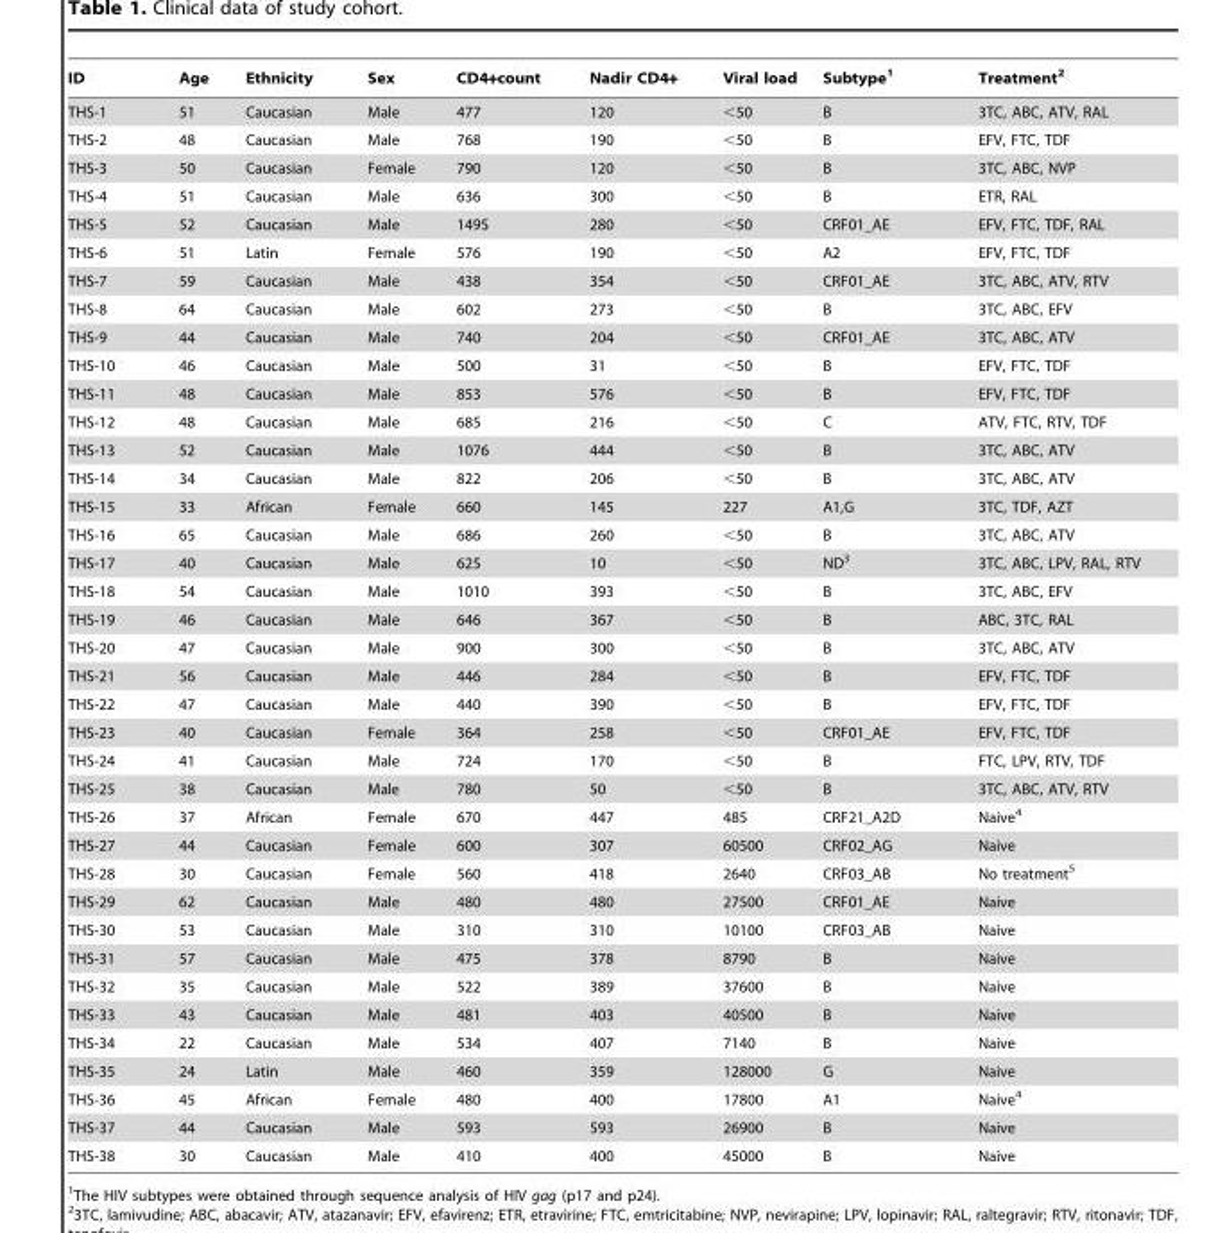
<table><thead><tr><td>ID</td><td>Age</td><td>Ethnicity</td><td>Sex</td><td>CD4+count</td><td>Nadir CD4+</td><td>Viral load</td><td>Subtype<sup>1</sup></td><td>Treatment<sup>2</sup></td></tr></thead><tbody><tr><td>THS-1</td><td>51</td><td>Caucasian</td><td>Male</td><td>477</td><td>120</td><td>&lt;50</td><td>B</td><td>3TC, ABC, ATV, RAL</td></tr><tr><td>THS-2</td><td>48</td><td>Caucasian</td><td>Male</td><td>768</td><td>190</td><td>&lt;50</td><td>B</td><td>EFV, FTC, TDF</td></tr><tr><td>THS-3</td><td>50</td><td>Caucasian</td><td>Female</td><td>790</td><td>120</td><td>&lt;50</td><td>B</td><td>3TC, ABC, NVP</td></tr><tr><td>THS-4</td><td>51</td><td>Caucasian</td><td>Male</td><td>636</td><td>300</td><td>&lt;50</td><td>B</td><td>ETR, RAL</td></tr><tr><td>THS-5</td><td>52</td><td>Caucasian</td><td>Male</td><td>1495</td><td>280</td><td>&lt;50</td><td>CRF01_AE</td><td>EFV, FTC, TDF, RAL</td></tr><tr><td>THS-6</td><td>51</td><td>Latin</td><td>Female</td><td>576</td><td>190</td><td>&lt;50</td><td>A2</td><td>EFV, FTC, TDF</td></tr><tr><td>THS-7</td><td>59</td><td>Caucasian</td><td>Male</td><td>438</td><td>354</td><td>&lt;50</td><td>CRF01_AE</td><td>3TC, ABC, ATV, RTV</td></tr><tr><td>THS-8</td><td>64</td><td>Caucasian</td><td>Male</td><td>602</td><td>273</td><td>&lt;50</td><td>B</td><td>3TC, ABC, EFV</td></tr><tr><td>THS-9</td><td>44</td><td>Caucasian</td><td>Male</td><td>740</td><td>204</td><td>&lt;50</td><td>CRF01_AE</td><td>3TC, ABC, ATV</td></tr><tr><td>THS-10</td><td>46</td><td>Caucasian</td><td>Male</td><td>500</td><td>31</td><td>&lt;50</td><td>B</td><td>EFV, FTC, TDF</td></tr><tr><td>THS-11</td><td>48</td><td>Caucasian</td><td>Male</td><td>853</td><td>576</td><td>&lt;50</td><td>B</td><td>EFV, FTC, TDF</td></tr><tr><td>THS-12</td><td>48</td><td>Caucasian</td><td>Male</td><td>685</td><td>216</td><td>&lt;50</td><td>C</td><td>ATV, FTC, RTV, TDF</td></tr><tr><td>THS-13</td><td>52</td><td>Caucasian</td><td>Male</td><td>1076</td><td>444</td><td>&lt;50</td><td>B</td><td>3TC, ABC, ATV</td></tr><tr><td>THS-14</td><td>34</td><td>Caucasian</td><td>Male</td><td>822</td><td>206</td><td>&lt;50</td><td>B</td><td>3TC, ABC, ATV</td></tr><tr><td>THS-15</td><td>33</td><td>African</td><td>Female</td><td>660</td><td>145</td><td>227</td><td>A1,G</td><td>3TC, TDF, AZT</td></tr><tr><td>THS-16</td><td>65</td><td>Caucasian</td><td>Male</td><td>686</td><td>260</td><td>&lt;50</td><td>B</td><td>3TC, ABC, ATV</td></tr><tr><td>THS-17</td><td>40</td><td>Caucasian</td><td>Male</td><td>625</td><td>10</td><td>&lt;50</td><td>ND<sup>3</sup></td><td>3TC, ABC, LPV, RAL, RTV</td></tr><tr><td>THS-18</td><td>54</td><td>Caucasian</td><td>Male</td><td>1010</td><td>393</td><td>&lt;50</td><td>B</td><td>3TC, ABC, EFV</td></tr><tr><td>THS-19</td><td>46</td><td>Caucasian</td><td>Male</td><td>646</td><td>367</td><td>&lt;50</td><td>B</td><td>ABC, 3TC, RAL</td></tr><tr><td>THS-20</td><td>47</td><td>Caucasian</td><td>Male</td><td>900</td><td>300</td><td>&lt;50</td><td>B</td><td>3TC, ABC, ATV</td></tr><tr><td>THS-21</td><td>56</td><td>Caucasian</td><td>Male</td><td>446</td><td>284</td><td>&lt;50</td><td>B</td><td>EFV, FTC, TDF</td></tr><tr><td>THS-22</td><td>47</td><td>Caucasian</td><td>Male</td><td>440</td><td>390</td><td>&lt;50</td><td>B</td><td>EFV, FTC, TDF</td></tr><tr><td>THS-23</td><td>40</td><td>Caucasian</td><td>Female</td><td>364</td><td>258</td><td>&lt;50</td><td>CRF01_AE</td><td>EFV, FTC, TDF</td></tr><tr><td>THS-24</td><td>41</td><td>Caucasian</td><td>Male</td><td>724</td><td>170</td><td>&lt;50</td><td>B</td><td>FTC, LPV, RTV, TDF</td></tr><tr><td>THS-25</td><td>38</td><td>Caucasian</td><td>Male</td><td>780</td><td>50</td><td>&lt;50</td><td>B</td><td>3TC, ABC, ATV, RTV</td></tr><tr><td>THS-26</td><td>37</td><td>African</td><td>Female</td><td>670</td><td>447</td><td>485</td><td>CRF21_A2D</td><td>Naive<sup>4</sup></td></tr><tr><td>THS-27</td><td>44</td><td>Caucasian</td><td>Female</td><td>600</td><td>307</td><td>60500</td><td>CRF02_AG</td><td>Naive</td></tr><tr><td>THS-28</td><td>30</td><td>Caucasian</td><td>Female</td><td>560</td><td>418</td><td>2640</td><td>CRF03_AB</td><td>No treatment<sup>5</sup></td></tr><tr><td>THS-29</td><td>62</td><td>Caucasian</td><td>Male</td><td>480</td><td>480</td><td>27500</td><td>CRF01_AE</td><td>Naive</td></tr><tr><td>THS-30</td><td>53</td><td>Caucasian</td><td>Male</td><td>310</td><td>310</td><td>10100</td><td>CRF03_AB</td><td>Naive</td></tr><tr><td>THS-31</td><td>57</td><td>Caucasian</td><td>Male</td><td>475</td><td>378</td><td>8790</td><td>B</td><td>Naive</td></tr><tr><td>THS-32</td><td>35</td><td>Caucasian</td><td>Male</td><td>522</td><td>389</td><td>37600</td><td>B</td><td>Naive</td></tr><tr><td>THS-33</td><td>43</td><td>Caucasian</td><td>Male</td><td>481</td><td>403</td><td>40500</td><td>B</td><td>Naive</td></tr><tr><td>THS-34</td><td>22</td><td>Caucasian</td><td>Male</td><td>534</td><td>407</td><td>7140</td><td>B</td><td>Naive</td></tr><tr><td>THS-35</td><td>24</td><td>Latin</td><td>Male</td><td>460</td><td>359</td><td>128000</td><td>G</td><td>Naive</td></tr><tr><td>THS-36</td><td>45</td><td>African</td><td>Female</td><td>480</td><td>400</td><td>17800</td><td>A1</td><td>Naive<sup>4</sup></td></tr><tr><td>THS-37</td><td>44</td><td>Caucasian</td><td>Male</td><td>593</td><td>593</td><td>26900</td><td>B</td><td>Naive</td></tr><tr><td>THS-38</td><td>30</td><td>Caucasian</td><td>Male</td><td>410</td><td>400</td><td>45000</td><td>B</td><td>Naive</td></tr></tbody></table>